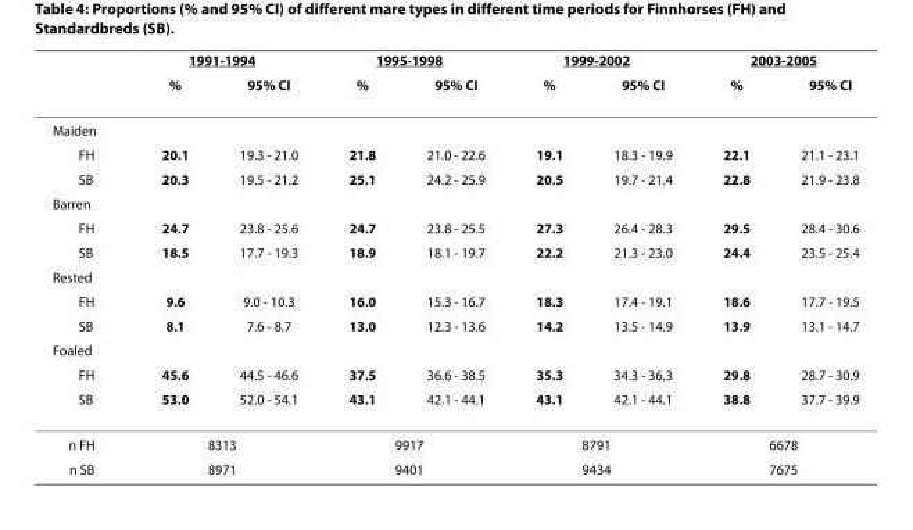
<table><thead><tr><td rowspan="2"></td><td colspan="2">1991-1994</td><td colspan="2">1995-1998</td><td colspan="2">1999-2002</td><td colspan="2">2003-2005</td></tr><tr><td>%</td><td>95% CI</td><td>%</td><td>95% CI</td><td>%</td><td>95% CI</td><td>%</td><td>95% CI</td></tr></thead><tbody><tr><td colspan="9">Maiden</td></tr><tr><td>FH</td><td>20.1</td><td>19.3 - 21.0</td><td>21.8</td><td>21.0 - 22.6</td><td>19.1</td><td>18.3 - 19.9</td><td>22.1</td><td>21.1 - 23.1</td></tr><tr><td>SB</td><td>20.3</td><td>19.5 - 21.2</td><td>25.1</td><td>24.2 - 25.9</td><td>20.5</td><td>19.7 - 21.4</td><td>22.8</td><td>21.9 - 23.8</td></tr><tr><td colspan="9">Barren</td></tr><tr><td>FH</td><td>24.7</td><td>23.8 - 25.6</td><td>24.7</td><td>23.8 - 25.5</td><td>27.3</td><td>26.4 - 28.3</td><td>29.5</td><td>28.4 - 30.6</td></tr><tr><td>SB</td><td>18.5</td><td>17.7 - 19.3</td><td>18.9</td><td>18.1 - 19.7</td><td>22.2</td><td>21.3 - 23.0</td><td>24.4</td><td>23.5 - 25.4</td></tr><tr><td colspan="9">Rested</td></tr><tr><td>FH</td><td>9.6</td><td>9.0 - 10.3</td><td>16.0</td><td>15.3 - 16.7</td><td>18.3</td><td>17.4 - 19.1</td><td>18.6</td><td>17.7 - 19.5</td></tr><tr><td>SB</td><td>8.1</td><td>7.6 - 8.7</td><td>13.0</td><td>12.3 - 13.6</td><td>14.2</td><td>13.5 - 14.9</td><td>13.9</td><td>13.1 - 14.7</td></tr><tr><td colspan="9">Foaled</td></tr><tr><td>FH</td><td>45.6</td><td>44.5 - 46.6</td><td>37.5</td><td>36.6 - 38.5</td><td>35.3</td><td>34.3 - 36.3</td><td>29.8</td><td>28.7 - 30.9</td></tr><tr><td>SB</td><td>53.0</td><td>52.0 - 54.1</td><td>43.1</td><td>42.1 - 44.1</td><td>43.1</td><td>42.1 - 44.1</td><td>38.8</td><td>37.7 - 39.9</td></tr><tr><td>n FH</td><td colspan="2">8313</td><td colspan="2">9917</td><td colspan="2">8791</td><td colspan="2">6678</td></tr><tr><td>n SB</td><td colspan="2">8971</td><td colspan="2">9401</td><td colspan="2">9434</td><td colspan="2">7675</td></tr></tbody></table>